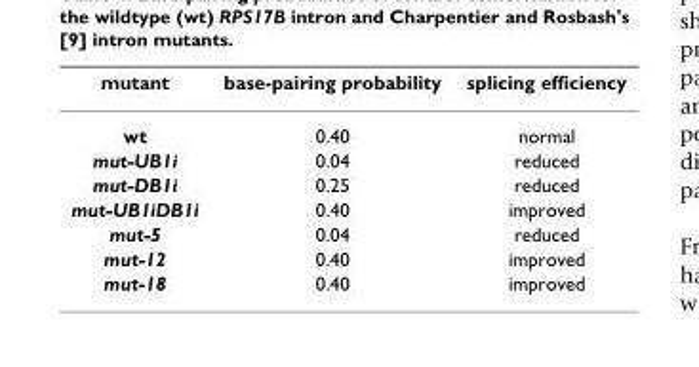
<table><thead><tr><td>mutant</td><td>base-pairing probability</td><td>splicing efficiency</td></tr></thead><tbody><tr><td>wt</td><td>0.40</td><td>normal</td></tr><tr><td>mut-UB1i</td><td>0.04</td><td>reduced</td></tr><tr><td>mut-DB1i</td><td>0.25</td><td>reduced</td></tr><tr><td>mut-UB1iDB1i</td><td>0.40</td><td>improved</td></tr><tr><td>mut-5</td><td>0.04</td><td>reduced</td></tr><tr><td>mut-12</td><td>0.40</td><td>improved</td></tr><tr><td>mut-18</td><td>0.40</td><td>improved</td></tr></tbody></table>